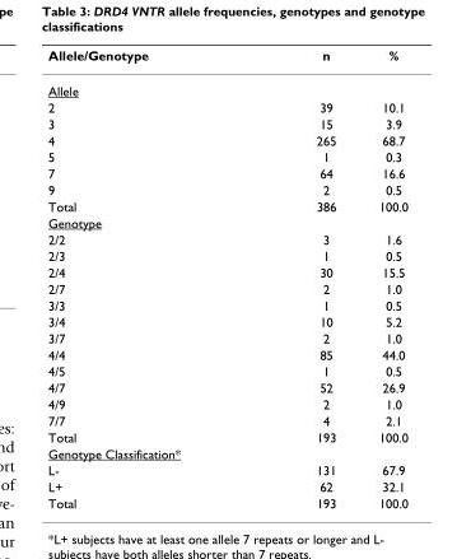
<table><thead><tr><td>Allele/Genotype</td><td>n</td><td>%</td></tr></thead><tbody><tr><td colspan="3">Allele</td></tr><tr><td>2</td><td>39</td><td>10.1</td></tr><tr><td>3</td><td>15</td><td>3.9</td></tr><tr><td>4</td><td>265</td><td>68.7</td></tr><tr><td>5</td><td>1</td><td>0.3</td></tr><tr><td>7</td><td>64</td><td>16.6</td></tr><tr><td>9</td><td>2</td><td>0.5</td></tr><tr><td>Total</td><td>386</td><td>100.0</td></tr><tr><td colspan="3">Genotype</td></tr><tr><td>2/2</td><td>3</td><td>1.6</td></tr><tr><td>2/3</td><td>1</td><td>0.5</td></tr><tr><td>2/4</td><td>30</td><td>15.5</td></tr><tr><td>2/7</td><td>2</td><td>1.0</td></tr><tr><td>3/3</td><td>1</td><td>0.5</td></tr><tr><td>3/4</td><td>10</td><td>5.2</td></tr><tr><td>3/7</td><td>2</td><td>1.0</td></tr><tr><td>4/4</td><td>85</td><td>44.0</td></tr><tr><td>4/5</td><td>1</td><td>0.5</td></tr><tr><td>4/7</td><td>52</td><td>26.9</td></tr><tr><td>4/9</td><td>2</td><td>1.0</td></tr><tr><td>7/7</td><td>4</td><td>2.1</td></tr><tr><td>Total</td><td>193</td><td>100.0</td></tr><tr><td colspan="3">Genotype Classification*</td></tr><tr><td>L-</td><td>131</td><td>67.9</td></tr><tr><td>L+</td><td>62</td><td>32.1</td></tr><tr><td>Total</td><td>193</td><td>100.0</td></tr></tbody></table>